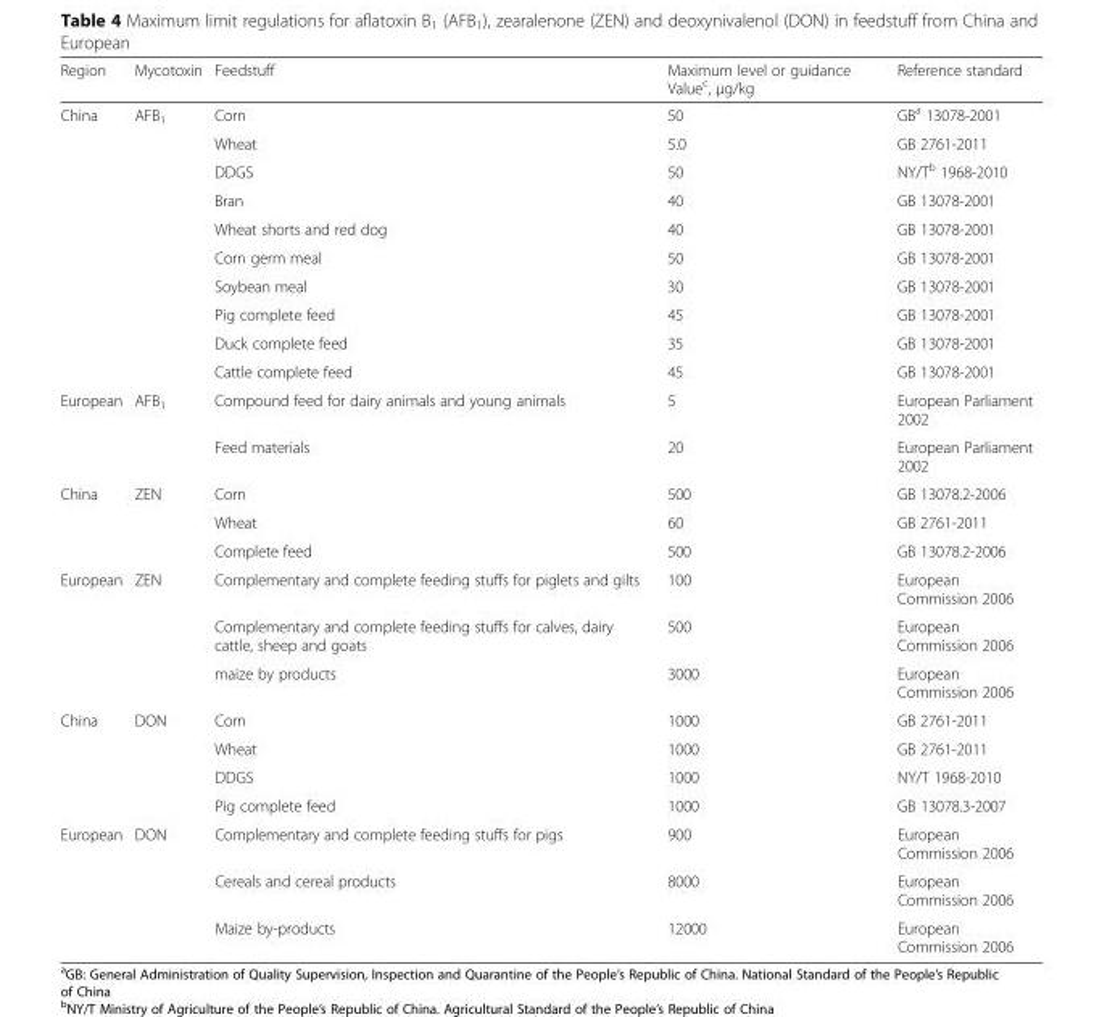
<table><thead><tr><td>Region</td><td>Mycotoxin</td><td>Feedstuff</td><td>Maximum level or guidance Value<sup>c</sup>, μg/kg</td><td>Reference standard</td></tr></thead><tbody><tr><td rowspan="10">China</td><td rowspan="10">AFB<sub>1</sub></td><td>Corn</td><td>50</td><td>GB<sup>a</sup> 13078-2001</td></tr><tr><td>Wheat</td><td>5.0</td><td>GB 2761-2011</td></tr><tr><td>DDGS</td><td>50</td><td>NY/T<sup>b</sup> 1968-2010</td></tr><tr><td>Bran</td><td>40</td><td>GB 13078-2001</td></tr><tr><td>Wheat shorts and red dog</td><td>40</td><td>GB 13078-2001</td></tr><tr><td>Corn germ meal</td><td>50</td><td>GB 13078-2001</td></tr><tr><td>Soybean meal</td><td>30</td><td>GB 13078-2001</td></tr><tr><td>Pig complete feed</td><td>45</td><td>GB 13078-2001</td></tr><tr><td>Duck complete feed</td><td>35</td><td>GB 13078-2001</td></tr><tr><td>Cattle complete feed</td><td>45</td><td>GB 13078-2001</td></tr><tr><td rowspan="2">European</td><td rowspan="2">AFB<sub>1</sub></td><td>Compound feed for dairy animals and young animals</td><td>5</td><td>European Parliament 2002</td></tr><tr><td>Feed materials</td><td>20</td><td>European Parliament 2002</td></tr><tr><td rowspan="3">China</td><td rowspan="3">ZEN</td><td>Corn</td><td>500</td><td>GB 13078.2-2006</td></tr><tr><td>Wheat</td><td>60</td><td>GB 2761-2011</td></tr><tr><td>Complete feed</td><td>500</td><td>GB 13078.2-2006</td></tr><tr><td rowspan="3">European</td><td rowspan="3">ZEN</td><td>Complementary and complete feeding stuffs for piglets and gilts</td><td>100</td><td>European Commission 2006</td></tr><tr><td>Complementary and complete feeding stuffs for calves, dairy cattle, sheep and goats</td><td>500</td><td>European Commission 2006</td></tr><tr><td>maize by products</td><td>3000</td><td>European Commission 2006</td></tr><tr><td rowspan="4">China</td><td rowspan="4">DON</td><td>Corn</td><td>1000</td><td>GB 2761-2011</td></tr><tr><td>Wheat</td><td>1000</td><td>GB 2761-2011</td></tr><tr><td>DDGS</td><td>1000</td><td>NY/T 1968-2010</td></tr><tr><td>Pig complete feed</td><td>1000</td><td>GB 13078.3-2007</td></tr><tr><td rowspan="3">European</td><td rowspan="2">DON</td><td>Complementary and complete feeding stuffs for pigs</td><td>900</td><td>European Commission 2006</td></tr><tr><td>Cereals and cereal products</td><td>8000</td><td>European Commission 2006</td></tr><tr><td></td><td>Maize by-products</td><td>12000</td><td>European Commission 2006</td></tr></tbody></table>